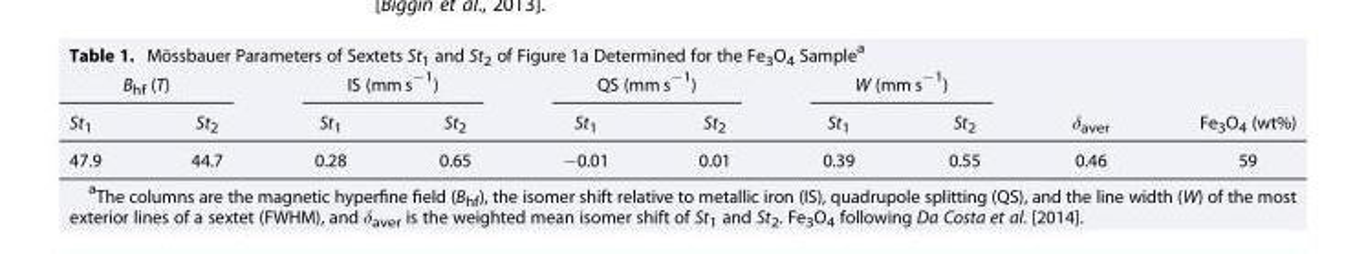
<table><thead><tr><td colspan="2">B<sub>hf</sub> (T)</td><td colspan="2">IS (mm s<sup>−1</sup>)</td><td colspan="2">QS (mm s<sup>−1</sup>)</td><td colspan="2">W (mm s<sup>−1</sup>)</td><td rowspan="2">δ<sub>aver</sub></td><td rowspan="2">Fe<sub>3</sub>O<sub>4</sub> (wt%)</td></tr><tr><td>St<sub>1</sub></td><td>St<sub>2</sub></td><td>St<sub>1</sub></td><td>St<sub>2</sub></td><td>St<sub>1</sub></td><td>St<sub>2</sub></td><td>St<sub>1</sub></td><td>St<sub>2</sub></td></tr></thead><tbody><tr><td>47.9</td><td>44.7</td><td>0.28</td><td>0.65</td><td>−0.01</td><td>0.01</td><td>0.39</td><td>0.55</td><td>0.46</td><td>59</td></tr></tbody></table>